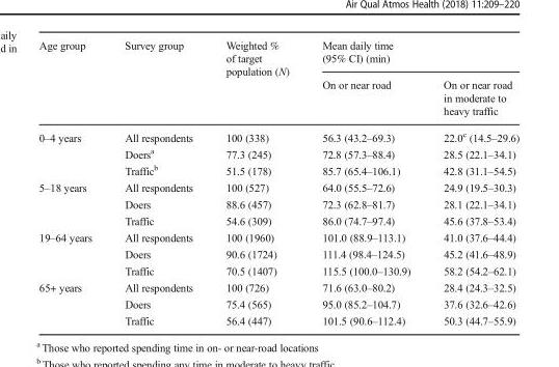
<table><thead><tr><td rowspan="2">Age group</td><td rowspan="2">Survey group</td><td rowspan="2">Weighted % of target population (N)</td><td colspan="2">Mean daily time (95% CI) (min)</td></tr><tr><td>On or near road</td><td>On or near road in moderate to heavy traffic</td></tr></thead><tbody><tr><td rowspan="3">0–4 years</td><td>All respondents</td><td>100 (338)</td><td>56.3 (43.2–69.3)</td><td>22.0<sup>c</sup> (14.5–29.6)</td></tr><tr><td>Doers<sup>a</sup></td><td>77.3 (245)</td><td>72.8 (57.3–88.4)</td><td>28.5 (22.1–34.1)</td></tr><tr><td>Traffic<sup>b</sup></td><td>51.5 (178)</td><td>85.7 (65.4–106.1)</td><td>42.8 (31.1–54.5)</td></tr><tr><td rowspan="3">5–18 years</td><td>All respondents</td><td>100 (527)</td><td>64.0 (55.5–72.6)</td><td>24.9 (19.5–30.3)</td></tr><tr><td>Doers</td><td>88.6 (457)</td><td>72.3 (62.8–81.7)</td><td>28.1 (22.1–34.1)</td></tr><tr><td>Traffic</td><td>54.6 (309)</td><td>86.0 (74.7–97.4)</td><td>45.6 (37.8–53.4)</td></tr><tr><td rowspan="3">19–64 years</td><td>All respondents</td><td>100 (1960)</td><td>101.0 (88.9–113.1)</td><td>41.0 (37.6–44.4)</td></tr><tr><td>Doers</td><td>90.6 (1724)</td><td>111.4 (98.4–124.5)</td><td>45.2 (41.6–48.9)</td></tr><tr><td>Traffic</td><td>70.5 (1407)</td><td>115.5 (100.0–130.9)</td><td>58.2 (54.2–62.1)</td></tr><tr><td rowspan="3">65+ years</td><td>All respondents</td><td>100 (726)</td><td>71.6 (63.0–80.2)</td><td>28.4 (24.3–32.5)</td></tr><tr><td>Doers</td><td>75.4 (565)</td><td>95.0 (85.2–104.7)</td><td>37.6 (32.6–42.6)</td></tr><tr><td>Traffic</td><td>56.4 (447)</td><td>101.5 (90.6–112.4)</td><td>50.3 (44.7–55.9)</td></tr></tbody></table>